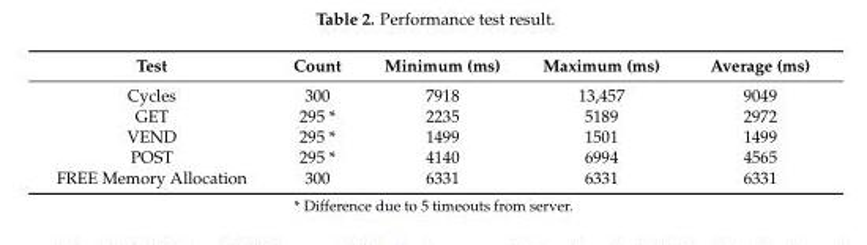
<table><thead><tr><td>Test</td><td>Count</td><td>Minimum (ms)</td><td>Maximum (ms)</td><td>Average (ms)</td></tr></thead><tbody><tr><td>Cycles</td><td>300</td><td>7918</td><td>13,457</td><td>9049</td></tr><tr><td>GET</td><td>295 *</td><td>2235</td><td>5189</td><td>2972</td></tr><tr><td>VEND</td><td>295 *</td><td>1499</td><td>1501</td><td>1499</td></tr><tr><td>POST</td><td>295 *</td><td>4140</td><td>6994</td><td>4565</td></tr><tr><td>FREE Memory Allocation</td><td>300</td><td>6331</td><td>6331</td><td>6331</td></tr></tbody></table>